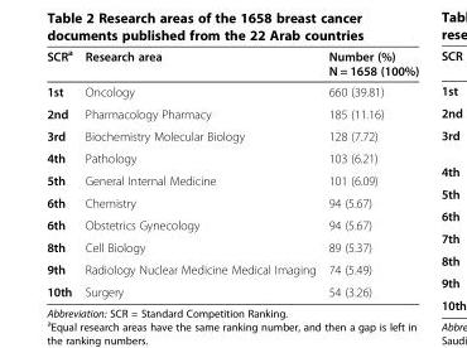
<table><thead><tr><td>SCR<sup>a</sup></td><td>Research area</td><td>Number (%) N = 1658 (100%)</td></tr></thead><tbody><tr><td>1st</td><td>Oncology</td><td>660 (39.81)</td></tr><tr><td>2nd</td><td>Pharmacology Pharmacy</td><td>185 (11.16)</td></tr><tr><td>3rd</td><td>Biochemistry Molecular Biology</td><td>128 (7.72)</td></tr><tr><td>4th</td><td>Pathology</td><td>103 (6.21)</td></tr><tr><td>5th</td><td>General Internal Medicine</td><td>101 (6.09)</td></tr><tr><td>6th</td><td>Chemistry</td><td>94 (5.67)</td></tr><tr><td>6th</td><td>Obstetrics Gynecology</td><td>94 (5.67)</td></tr><tr><td>8th</td><td>Cell Biology</td><td>89 (5.37)</td></tr><tr><td>9th</td><td>Radiology Nuclear Medicine Medical Imaging</td><td>74 (5.49)</td></tr><tr><td>10th</td><td>Surgery</td><td>54 (3.26)</td></tr></tbody></table>